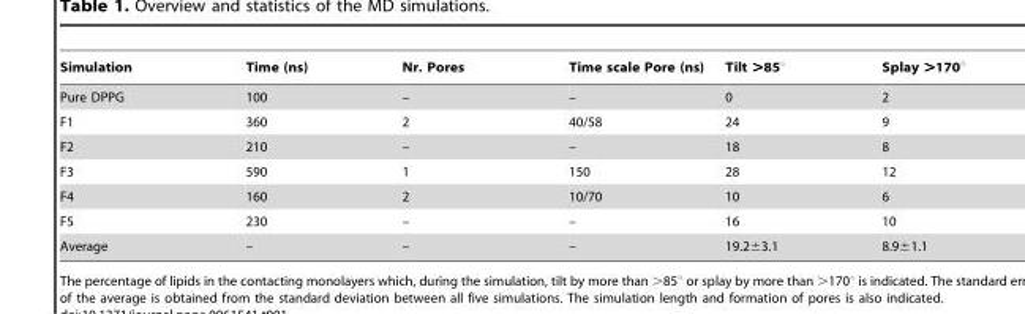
<table><thead><tr><td>Simulation</td><td>Time (ns)</td><td>Nr. Pores</td><td>Time scale Pore (ns)</td><td>Tilt &gt;85°</td><td>Splay &gt;170°</td></tr></thead><tbody><tr><td>Pure DPPG</td><td>100</td><td>–</td><td>–</td><td>0</td><td>2</td></tr><tr><td>F1</td><td>360</td><td>2</td><td>40/58</td><td>24</td><td>9</td></tr><tr><td>F2</td><td>210</td><td>–</td><td>–</td><td>18</td><td>8</td></tr><tr><td>F3</td><td>590</td><td>1</td><td>150</td><td>28</td><td>12</td></tr><tr><td>F4</td><td>160</td><td>2</td><td>10/70</td><td>10</td><td>6</td></tr><tr><td>F5</td><td>230</td><td>–</td><td>–</td><td>16</td><td>10</td></tr><tr><td>Average</td><td>–</td><td>–</td><td>–</td><td>19.2±3.1</td><td>8.9±1.1</td></tr></tbody></table>